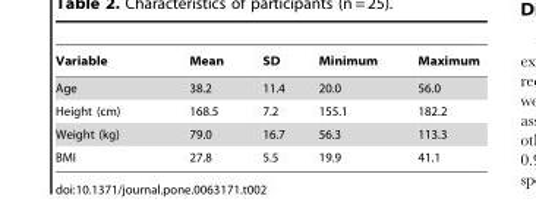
<table><thead><tr><td>Variable</td><td>Mean</td><td>SD</td><td>Minimum</td><td>Maximum</td></tr></thead><tbody><tr><td>Age</td><td>38.2</td><td>11.4</td><td>20.0</td><td>56.0</td></tr><tr><td>Height (cm)</td><td>168.5</td><td>7.2</td><td>155.1</td><td>182.2</td></tr><tr><td>Weight (kg)</td><td>79.0</td><td>16.7</td><td>56.3</td><td>113.3</td></tr><tr><td>BMI</td><td>27.8</td><td>5.5</td><td>19.9</td><td>41.1</td></tr></tbody></table>